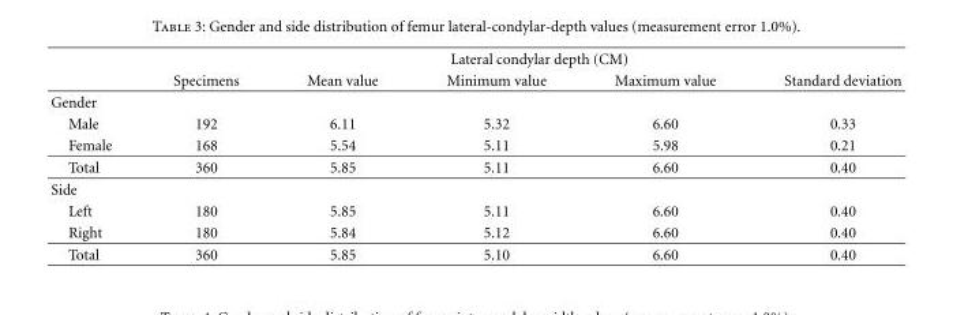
<table><thead><tr><td rowspan="2"></td><td colspan="5">Lateral condylar depth (CM)</td></tr><tr><td>Specimens</td><td>Mean value</td><td>Minimum value</td><td>Maximum value</td><td>Standard deviation</td></tr></thead><tbody><tr><td colspan="6">Gender</td></tr><tr><td>Male</td><td>192</td><td>6.11</td><td>5.32</td><td>6.60</td><td>0.33</td></tr><tr><td>Female</td><td>168</td><td>5.54</td><td>5.11</td><td>5.98</td><td>0.21</td></tr><tr><td>Total</td><td>360</td><td>5.85</td><td>5.11</td><td>6.60</td><td>0.40</td></tr><tr><td colspan="6">Side</td></tr><tr><td>Left</td><td>180</td><td>5.85</td><td>5.11</td><td>6.60</td><td>0.40</td></tr><tr><td>Right</td><td>180</td><td>5.84</td><td>5.12</td><td>6.60</td><td>0.40</td></tr><tr><td>Total</td><td>360</td><td>5.85</td><td>5.10</td><td>6.60</td><td>0.40</td></tr></tbody></table>